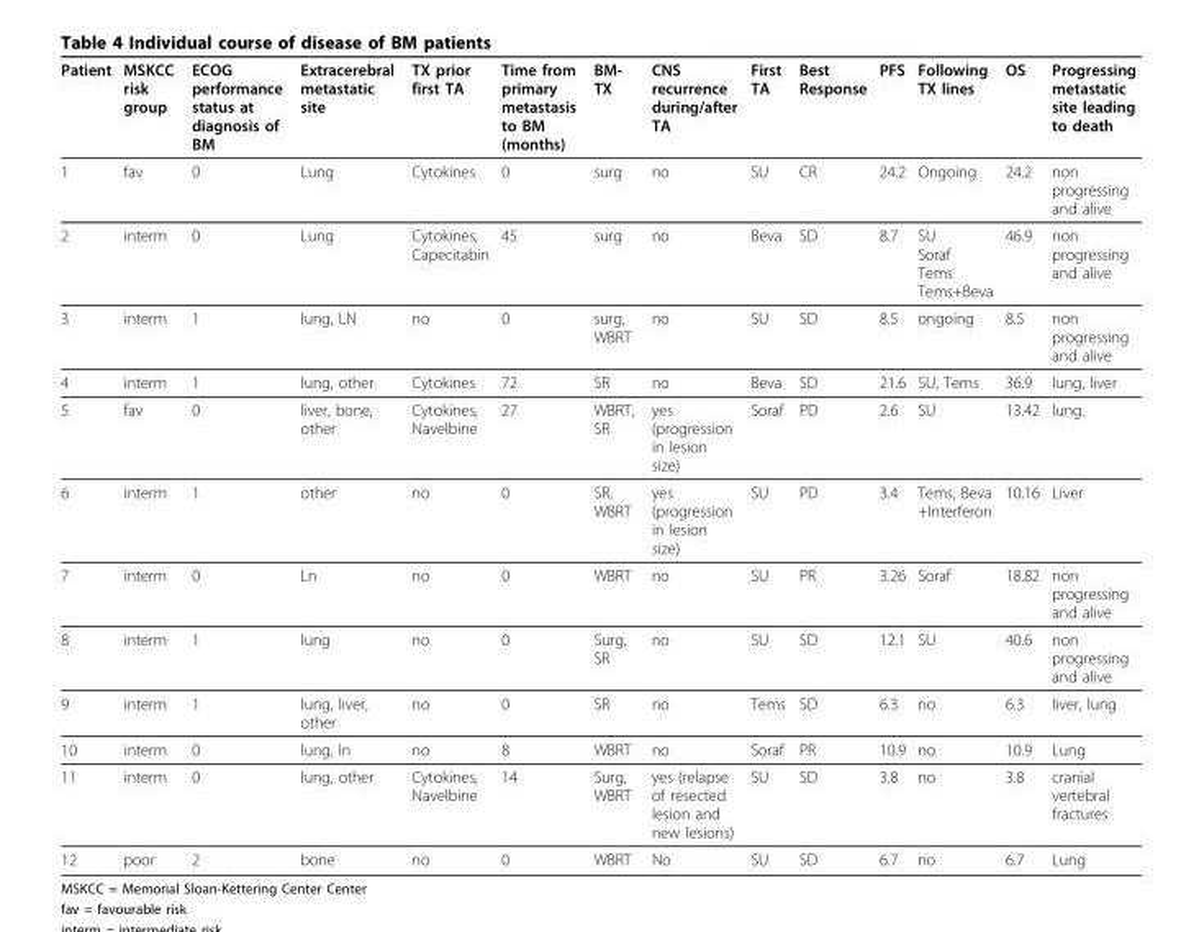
<table><thead><tr><td>Patient</td><td>MSKCC risk group</td><td>ECOG performance status at diagnosis of BM</td><td>Extracerebral metastatic site</td><td>TX prior first TA</td><td>Time from primary metastasis to BM (months)</td><td>BM- TX</td><td>CNS recurrence during/after TA</td><td>First TA</td><td>Best Response</td><td>PFS</td><td>Following TX lines</td><td>OS</td><td>Progressing metastatic site leading to death</td></tr></thead><tbody><tr><td>1</td><td>fav</td><td>0</td><td>Lung</td><td>Cytokines</td><td>0</td><td>surg</td><td>no</td><td>SU</td><td>CR</td><td>24.2</td><td>Ongoing</td><td>24.2</td><td>non progressing and alive</td></tr><tr><td>2</td><td>interm</td><td>0</td><td>Lung</td><td>Cytokines, Capecitabin</td><td>45</td><td>surg</td><td>no</td><td>Beva</td><td>SD</td><td>8.7</td><td>SU Soraf Tems Tems+Beva</td><td>46.9</td><td>non progressing and alive</td></tr><tr><td>3</td><td>interm</td><td>1</td><td>lung, LN</td><td>no</td><td>0</td><td>surg, WBRT</td><td>no</td><td>SU</td><td>SD</td><td>8.5</td><td>ongoing</td><td>8.5</td><td>non progressing and alive</td></tr><tr><td>4</td><td>interm</td><td>1</td><td>lung, other</td><td>Cytokines</td><td>72</td><td>SR</td><td>no</td><td>Beva</td><td>SD</td><td>21.6</td><td>SU, Tems</td><td>36.9</td><td>lung, liver</td></tr><tr><td>5</td><td>fav</td><td>0</td><td>liver, bone, other</td><td>Cytokines, Navelbine</td><td>27</td><td>WBRT, SR</td><td>yes (progression in lesion size)</td><td>Soraf</td><td>PD</td><td>2.6</td><td>SU</td><td>13.42</td><td>lung.</td></tr><tr><td>6</td><td>interm</td><td>1</td><td>other</td><td>no</td><td>0</td><td>SR, WBRT</td><td>yes (progression in lesion size)</td><td>SU</td><td>PD</td><td>3.4</td><td>Tems, Beva +Interferon</td><td>10.16</td><td>Liver</td></tr><tr><td>7</td><td>interm</td><td>0</td><td>Ln</td><td>no</td><td>0</td><td>WBRT</td><td>no</td><td>SU</td><td>PR</td><td>3.26</td><td>Soraf</td><td>18.82</td><td>non progressing and alive</td></tr><tr><td>8</td><td>interm</td><td>1</td><td>lung</td><td>no</td><td>0</td><td>Surg, SR</td><td>no</td><td>SU</td><td>SD</td><td>12.1</td><td>SU</td><td>40.6</td><td>non progressing and alive</td></tr><tr><td>9</td><td>interm</td><td>1</td><td>lung, liver, other</td><td>no</td><td>0</td><td>SR</td><td>no</td><td>Tems</td><td>SD</td><td>6.3</td><td>no</td><td>6.3</td><td>liver, lung</td></tr><tr><td>10</td><td>interm</td><td>0</td><td>lung, ln</td><td>no</td><td>8</td><td>WBRT</td><td>no</td><td>Soraf</td><td>PR</td><td>10.9</td><td>no</td><td>10.9</td><td>Lung</td></tr><tr><td>11</td><td>interm</td><td>0</td><td>lung, other</td><td>Cytokines, Navelbine</td><td>14</td><td>Surg, WBRT</td><td>yes (relapse of resected lesion and new lesions)</td><td>SU</td><td>SD</td><td>3.8</td><td>no</td><td>3.8</td><td>cranial vertebral fractures</td></tr><tr><td>12</td><td>poor</td><td>2</td><td>bone</td><td>no</td><td>0</td><td>WBRT</td><td>No</td><td>SU</td><td>SD</td><td>6.7</td><td>no</td><td>6.7</td><td>Lung</td></tr></tbody></table>